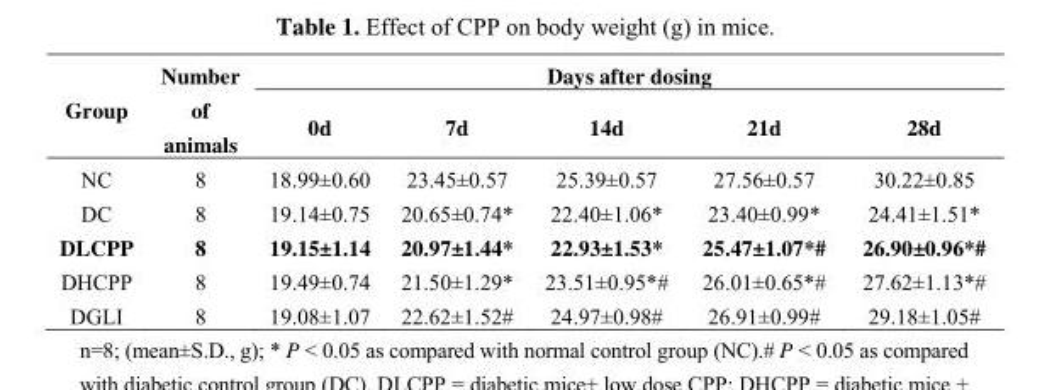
<table><thead><tr><td rowspan="2">Group</td><td rowspan="2">Number of animals</td><td colspan="5">Days after dosing</td></tr><tr><td>0d</td><td>7d</td><td>14d</td><td>21d</td><td>28d</td></tr></thead><tbody><tr><td>NC</td><td>8</td><td>18.99±0.60</td><td>23.45±0.57</td><td>25.39±0.57</td><td>27.56±0.57</td><td>30.22±0.85</td></tr><tr><td>DC</td><td>8</td><td>19.14±0.75</td><td>20.65±0.74*</td><td>22.40±1.06*</td><td>23.40±0.99*</td><td>24.41±1.51*</td></tr><tr><td>DLCPP</td><td>8</td><td>19.15±1.14</td><td>20.97±1.44*</td><td>22.93±1.53*</td><td>25.47±1.07*#</td><td>26.90±0.96*#</td></tr><tr><td>DHCPP</td><td>8</td><td>19.49±0.74</td><td>21.50±1.29*</td><td>23.51±0.95*#</td><td>26.01±0.65*#</td><td>27.62±1.13*#</td></tr><tr><td>DGLI</td><td>8</td><td>19.08±1.07</td><td>22.62±1.52#</td><td>24.97±0.98#</td><td>26.91±0.99#</td><td>29.18±1.05#</td></tr></tbody></table>